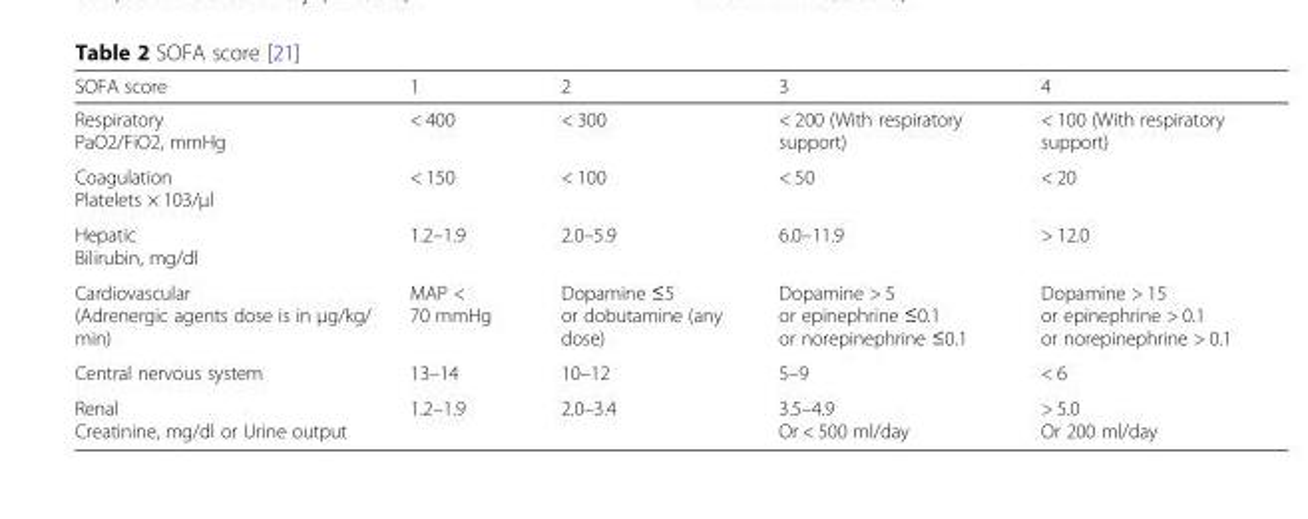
<table><thead><tr><td>SOFA score</td><td>1</td><td>2</td><td>3</td><td>4</td></tr></thead><tbody><tr><td>Respiratory PaO2/FiO2, mmHg</td><td>&lt; 400</td><td>&lt; 300</td><td>&lt; 200 (With respiratory support)</td><td>&lt; 100 (With respiratory support)</td></tr><tr><td>Coagulation Platelets × 103/μl</td><td>&lt; 150</td><td>&lt; 100</td><td>&lt; 50</td><td>&lt; 20</td></tr><tr><td>Hepatic Bilirubin, mg/dl</td><td>1.2–1.9</td><td>2.0–5.9</td><td>6.0–11.9</td><td>&gt; 12.0</td></tr><tr><td>Cardiovascular (Adrenergic agents dose is in μg/kg/ min)</td><td>MAP &lt; 70 mmHg</td><td>Dopamine ≤5 or dobutamine (any dose)</td><td>Dopamine &gt; 5 or epinephrine ≤0.1 or norepinephrine ≤0.1</td><td>Dopamine &gt; 15 or epinephrine &gt; 0.1 or norepinephrine &gt; 0.1</td></tr><tr><td>Central nervous system</td><td>13–14</td><td>10–12</td><td>5–9</td><td>&lt; 6</td></tr><tr><td>Renal Creatinine, mg/dl or Urine output</td><td>1.2–1.9</td><td>2.0–3.4</td><td>3.5–4.9 Or &lt; 500 ml/day</td><td>&gt; 5.0 Or 200 ml/day</td></tr></tbody></table>